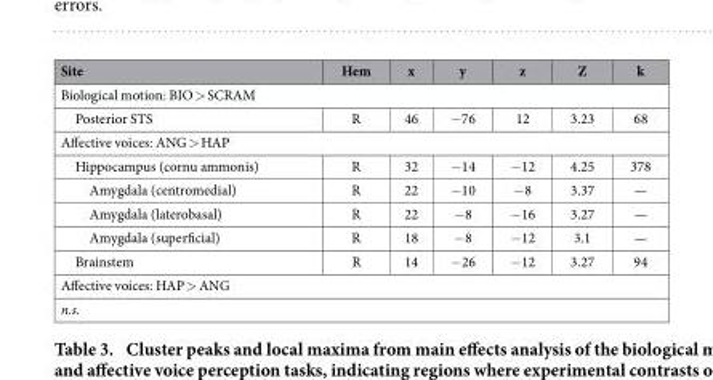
<table><thead><tr><td>Site</td><td>Hem</td><td>x</td><td>y</td><td>z</td><td>Z</td><td>k</td></tr></thead><tbody><tr><td colspan="7">Biological motion: BIO &gt; SCRAM</td></tr><tr><td>Posterior STS</td><td>R</td><td>46</td><td>− 76</td><td>12</td><td>3.23</td><td>68</td></tr><tr><td colspan="7">Affective voices: ANG &gt; HAP</td></tr><tr><td>Hippocampus (cornu ammonis)</td><td>R</td><td>32</td><td>− 14</td><td>− 12</td><td>4.25</td><td>378</td></tr><tr><td>Amygdala (centromedial)</td><td>R</td><td>22</td><td>− 10</td><td>− 8</td><td>3.37</td><td>—</td></tr><tr><td>Amygdala (laterobasal)</td><td>R</td><td>22</td><td>− 8</td><td>− 16</td><td>3.27</td><td>—</td></tr><tr><td>Amygdala (superficial)</td><td>R</td><td>18</td><td>− 8</td><td>− 12</td><td>3.1</td><td>—</td></tr><tr><td>Brainstem</td><td>R</td><td>14</td><td>− 26</td><td>− 12</td><td>3.27</td><td>94</td></tr><tr><td colspan="7">Affective voices: HAP &gt; ANG</td></tr><tr><td colspan="7">n.s.</td></tr></tbody></table>